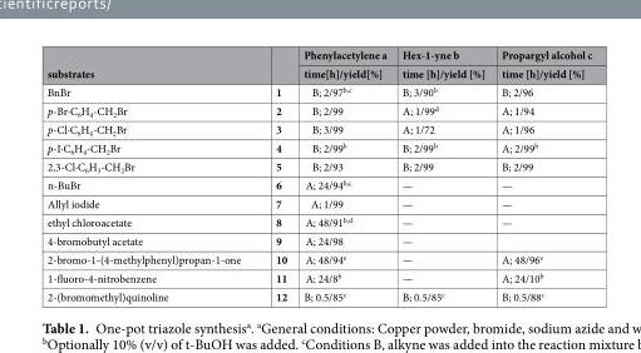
<table><thead><tr><td rowspan="2">substrates</td><td rowspan="2"></td><td rowspan="2">Phenylacetylene a time[h]/yield[%]</td><td rowspan="2">Hex-1-yne b time [h]/yield [%]</td><td rowspan="2">Propargyl alcohol c time [h]/yield [%]</td></tr><tr></tr></thead><tbody><tr><td>BnBr</td><td>1</td><td>B; 2/97<sup>b,c</sup></td><td>B; 3/90<sup>b</sup></td><td>B; 2/96</td></tr><tr><td>p-Br·C<sub>6</sub>H<sub>4</sub>-CH<sub>2</sub>Br</td><td>2</td><td>B; 2/99</td><td>A; 1/99<sup>d</sup></td><td>A; 1/94</td></tr><tr><td>p-Cl·C<sub>6</sub>H<sub>4</sub>-CH<sub>2</sub>Br</td><td>3</td><td>B; 3/99</td><td>A; 1/72</td><td>A; 1/96</td></tr><tr><td>p-I·C<sub>6</sub>H<sub>4</sub>-CH<sub>2</sub>Br</td><td>4</td><td>B; 2/99<sup>b</sup></td><td>B; 2/99<sup>b</sup></td><td>A; 2/99<sup>b</sup></td></tr><tr><td>2,3-Cl·C<sub>6</sub>H<sub>3</sub>-CH<sub>2</sub>Br</td><td>5</td><td>B; 2/93</td><td>B; 2/99</td><td>B; 2/99</td></tr><tr><td>n-BuBr</td><td>6</td><td>A; 24/94<sup>b,c</sup></td><td>—</td><td>—</td></tr><tr><td>Allyl iodide</td><td>7</td><td>A; 1/99</td><td>—</td><td>—</td></tr><tr><td>ethyl chloroacetate</td><td>8</td><td>A; 48/91<sup>b,d</sup></td><td>—</td><td>—</td></tr><tr><td>4-bromobutyl acetate</td><td>9</td><td>A; 24/98</td><td>—</td><td></td></tr><tr><td>2-bromo-1-(4-methylphenyl)propan-1-one</td><td>10</td><td>A; 48/94<sup>e</sup></td><td>—</td><td>A; 48/96<sup>e</sup></td></tr><tr><td>1-fluoro-4-nitrobenzene</td><td>11</td><td>A; 24/8<sup>b</sup></td><td>—</td><td>A; 24/10<sup>b</sup></td></tr><tr><td>2-(bromomethyl)quinoline</td><td>12</td><td>B; 0.5/85<sup>c</sup></td><td>B; 0.5/85<sup>c</sup></td><td>B; 0.5/88<sup>c</sup></td></tr></tbody></table>